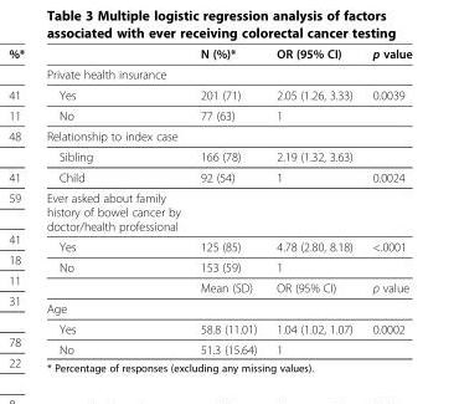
<table><thead><tr><td></td><td>N (%)*</td><td>OR (95% CI)</td><td>p value</td></tr></thead><tbody><tr><td colspan="4">Private health insurance</td></tr><tr><td>Yes</td><td>201 (71)</td><td>2.05 (1.26, 3.33)</td><td>0.0039</td></tr><tr><td>No</td><td>77 (63)</td><td>1</td><td></td></tr><tr><td colspan="4">Relationship to index case</td></tr><tr><td>Sibling</td><td>166 (78)</td><td>2.19 (1.32, 3.63)</td><td></td></tr><tr><td>Child</td><td>92 (54)</td><td>1</td><td>0.0024</td></tr><tr><td colspan="4">Ever asked about family history of bowel cancer by doctor/health professional</td></tr><tr><td>Yes</td><td>125 (85)</td><td>4.78 (2.80, 8.18)</td><td>&lt;.0001</td></tr><tr><td rowspan="2">No</td><td>153 (59)</td><td>1</td><td></td></tr><tr><td>Mean (SD)</td><td>OR (95% CI)</td><td>p value</td></tr><tr><td colspan="4">Age</td></tr><tr><td>Yes</td><td>58.8 (11.01)</td><td>1.04 (1.02, 1.07)</td><td>0.0002</td></tr><tr><td>No</td><td>51.3 (15.64)</td><td>1</td><td></td></tr></tbody></table>